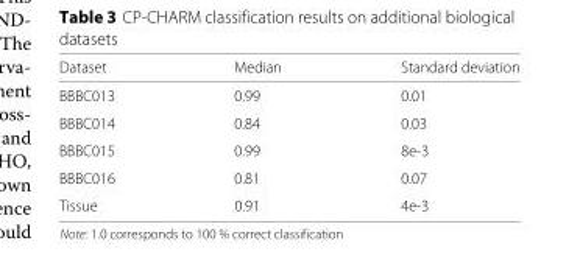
<table><thead><tr><td>Dataset</td><td>Median</td><td>Standard deviation</td></tr></thead><tbody><tr><td>BBBC013</td><td>0.99</td><td>0.01</td></tr><tr><td>BBBC014</td><td>0.84</td><td>0.03</td></tr><tr><td>BBBC015</td><td>0.99</td><td>8e-3</td></tr><tr><td>BBBC016</td><td>0.81</td><td>0.07</td></tr><tr><td>Tissue</td><td>0.91</td><td>4e-3</td></tr></tbody></table>